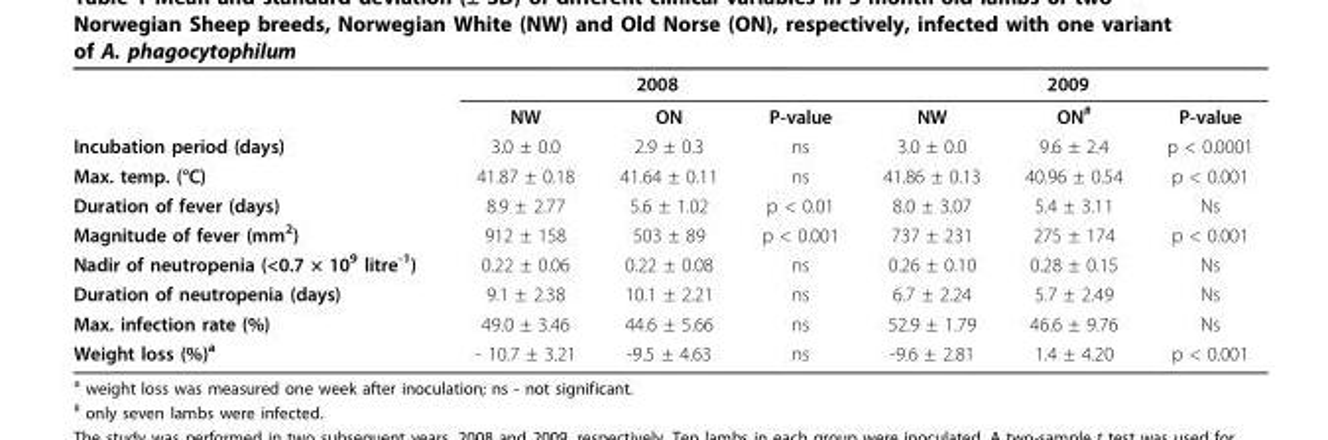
<table><thead><tr><td rowspan="2"></td><td colspan="3">2008</td><td colspan="3">2009</td></tr><tr><td>NW</td><td>ON</td><td>P-value</td><td>NW</td><td>ON<sup>#</sup></td><td>P-value</td></tr></thead><tbody><tr><td>Incubation period (days)</td><td>3.0 ± 0.0</td><td>2.9 ± 0.3</td><td>ns</td><td>3.0 ± 0.0</td><td>9.6 ± 2.4</td><td>p &lt; 0.0001</td></tr><tr><td>Max. temp. (°C)</td><td>41.87 ± 0.18</td><td>41.64 ± 0.11</td><td>ns</td><td>41.86 ± 0.13</td><td>40.96 ± 0.54</td><td>p &lt; 0.001</td></tr><tr><td>Duration of fever (days)</td><td>8.9 ± 2.77</td><td>5.6 ± 1.02</td><td>p &lt; 0.01</td><td>8.0 ± 3.07</td><td>5.4 ± 3.11</td><td>Ns</td></tr><tr><td>Magnitude of fever (mm<sup>2</sup>)</td><td>912 ± 158</td><td>503 ± 89</td><td>p &lt; 0.001</td><td>737 ± 231</td><td>275 ± 174</td><td>p &lt; 0.001</td></tr><tr><td>Nadir of neutropenia (&lt;0.7 × 10<sup>9</sup> litre<sup>-1</sup>)</td><td>0.22 ± 0.06</td><td>0.22 ± 0.08</td><td>ns</td><td>0.26 ± 0.10</td><td>0.28 ± 0.15</td><td>Ns</td></tr><tr><td>Duration of neutropenia (days)</td><td>9.1 ± 2.38</td><td>10.1 ± 2.21</td><td>ns</td><td>6.7 ± 2.24</td><td>5.7 ± 2.49</td><td>Ns</td></tr><tr><td>Max. infection rate (%)</td><td>49.0 ± 3.46</td><td>44.6 ± 5.66</td><td>ns</td><td>52.9 ± 1.79</td><td>46.6 ± 9.76</td><td>Ns</td></tr><tr><td>Weight loss (%)<sup>a</sup></td><td>- 10.7 ± 3.21</td><td>-9.5 ± 4.63</td><td>ns</td><td>-9.6 ± 2.81</td><td>1.4 ± 4.20</td><td>p &lt; 0.001</td></tr></tbody></table>